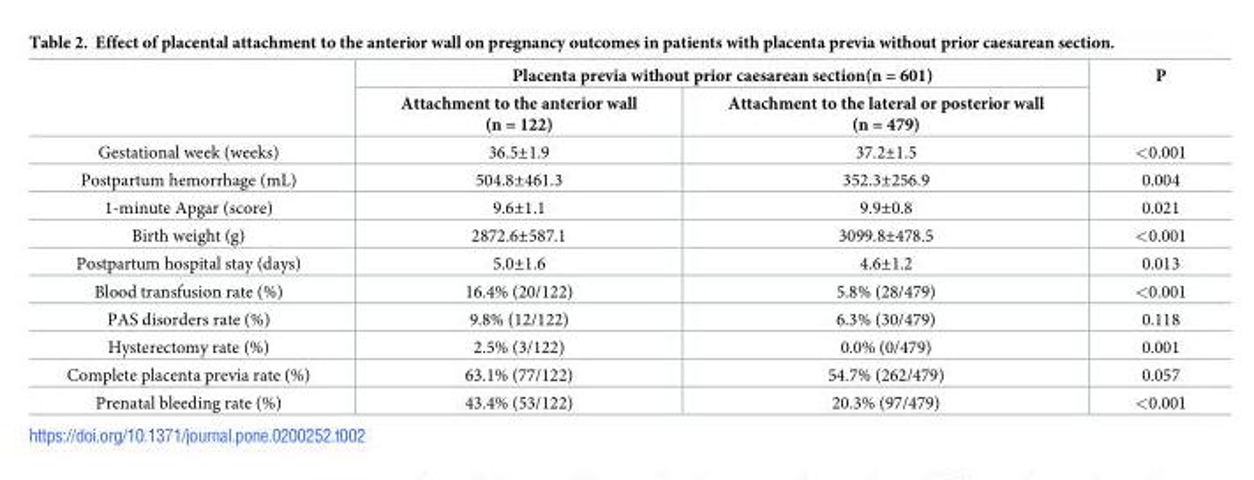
<table><thead><tr><td rowspan="2"></td><td colspan="2">Placenta previa without prior caesarean section(n = 601)</td><td rowspan="2">P</td></tr><tr><td>Attachment to the anterior wall (n = 122)</td><td>Attachment to the lateral or posterior wall (n = 479)</td></tr></thead><tbody><tr><td>Gestational week (weeks)</td><td>36.5±1.9</td><td>37.2±1.5</td><td>&lt;0.001</td></tr><tr><td>Postpartum hemorrhage (mL)</td><td>504.8±461.3</td><td>352.3±256.9</td><td>0.004</td></tr><tr><td>1-minute Apgar (score)</td><td>9.6±1.1</td><td>9.9±0.8</td><td>0.021</td></tr><tr><td>Birth weight (g)</td><td>2872.6±587.1</td><td>3099.8±478.5</td><td>&lt;0.001</td></tr><tr><td>Postpartum hospital stay (days)</td><td>5.0±1.6</td><td>4.6±1.2</td><td>0.013</td></tr><tr><td>Blood transfusion rate (%)</td><td>16.4% (20/122)</td><td>5.8% (28/479)</td><td>&lt;0.001</td></tr><tr><td>PAS disorders rate (%)</td><td>9.8% (12/122)</td><td>6.3% (30/479)</td><td>0.118</td></tr><tr><td>Hysterectomy rate (%)</td><td>2.5% (3/122)</td><td>0.0% (0/479)</td><td>0.001</td></tr><tr><td>Complete placenta previa rate (%)</td><td>63.1% (77/122)</td><td>54.7% (262/479)</td><td>0.057</td></tr><tr><td>Prenatal bleeding rate (%)</td><td>43.4% (53/122)</td><td>20.3% (97/479)</td><td>&lt;0.001</td></tr></tbody></table>